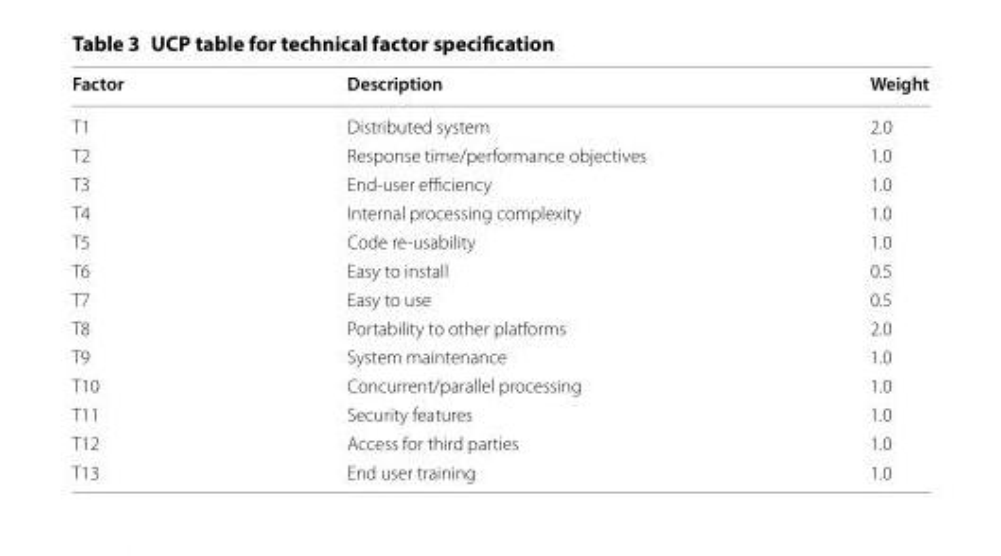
<table><thead><tr><td>Factor</td><td>Description</td><td>Weight</td></tr></thead><tbody><tr><td>T1</td><td>Distributed system</td><td>2.0</td></tr><tr><td>T2</td><td>Response time/performance objectives</td><td>1.0</td></tr><tr><td>T3</td><td>End-user efficiency</td><td>1.0</td></tr><tr><td>T4</td><td>Internal processing complexity</td><td>1.0</td></tr><tr><td>T5</td><td>Code re-usability</td><td>1.0</td></tr><tr><td>T6</td><td>Easy to install</td><td>0.5</td></tr><tr><td>T7</td><td>Easy to use</td><td>0.5</td></tr><tr><td>T8</td><td>Portability to other platforms</td><td>2.0</td></tr><tr><td>T9</td><td>System maintenance</td><td>1.0</td></tr><tr><td>T10</td><td>Concurrent/parallel processing</td><td>1.0</td></tr><tr><td>T11</td><td>Security features</td><td>1.0</td></tr><tr><td>T12</td><td>Access for third parties</td><td>1.0</td></tr><tr><td>T13</td><td>End user training</td><td>1.0</td></tr></tbody></table>